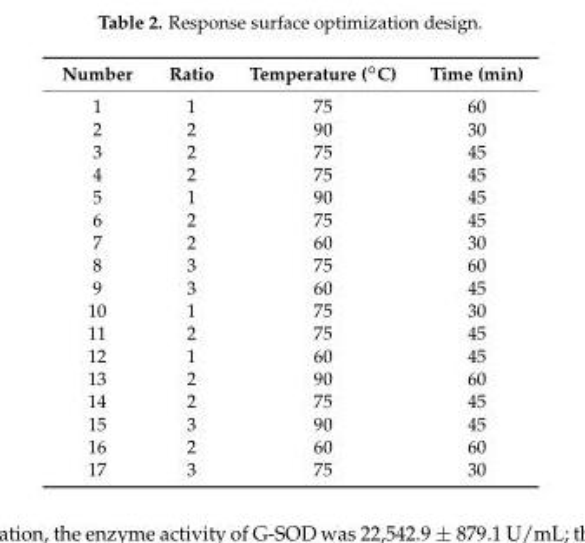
<table><thead><tr><td>Number</td><td>Ratio</td><td>Temperature (◦C)</td><td>Time (min)</td></tr></thead><tbody><tr><td>1</td><td>1</td><td>75</td><td>60</td></tr><tr><td>2</td><td>2</td><td>90</td><td>30</td></tr><tr><td>3</td><td>2</td><td>75</td><td>45</td></tr><tr><td>4</td><td>2</td><td>75</td><td>45</td></tr><tr><td>5</td><td>1</td><td>90</td><td>45</td></tr><tr><td>6</td><td>2</td><td>75</td><td>45</td></tr><tr><td>7</td><td>2</td><td>60</td><td>30</td></tr><tr><td>8</td><td>3</td><td>75</td><td>60</td></tr><tr><td>9</td><td>3</td><td>60</td><td>45</td></tr><tr><td>10</td><td>1</td><td>75</td><td>30</td></tr><tr><td>11</td><td>2</td><td>75</td><td>45</td></tr><tr><td>12</td><td>1</td><td>60</td><td>45</td></tr><tr><td>13</td><td>2</td><td>90</td><td>60</td></tr><tr><td>14</td><td>2</td><td>75</td><td>45</td></tr><tr><td>15</td><td>3</td><td>90</td><td>45</td></tr><tr><td>16</td><td>2</td><td>60</td><td>60</td></tr><tr><td>17</td><td>3</td><td>75</td><td>30</td></tr></tbody></table>